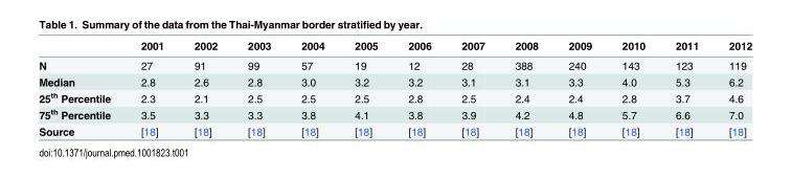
<table><thead><tr><td></td><td>2001</td><td>2002</td><td>2003</td><td>2004</td><td>2005</td><td>2006</td><td>2007</td><td>2008</td><td>2009</td><td>2010</td><td>2011</td><td>2012</td></tr></thead><tbody><tr><td>N</td><td>27</td><td>91</td><td>99</td><td>57</td><td>19</td><td>12</td><td>28</td><td>388</td><td>240</td><td>143</td><td>123</td><td>119</td></tr><tr><td>Median</td><td>2.8</td><td>2.6</td><td>2.8</td><td>3.0</td><td>3.2</td><td>3.2</td><td>3.1</td><td>3.1</td><td>3.3</td><td>4.0</td><td>5.3</td><td>6.2</td></tr><tr><td>25<sup>th</sup> Percentile</td><td>2.3</td><td>2.1</td><td>2.5</td><td>2.5</td><td>2.5</td><td>2.8</td><td>2.5</td><td>2.4</td><td>2.4</td><td>2.8</td><td>3.7</td><td>4.6</td></tr><tr><td>75<sup>th</sup> Percentile</td><td>3.5</td><td>3.3</td><td>3.3</td><td>3.8</td><td>4.1</td><td>3.8</td><td>3.9</td><td>4.2</td><td>4.8</td><td>5.7</td><td>6.6</td><td>7.0</td></tr><tr><td>Source</td><td>[18]</td><td>[18]</td><td>[18]</td><td>[18]</td><td>[18]</td><td>[18]</td><td>[18]</td><td>[18]</td><td>[18]</td><td>[18]</td><td>[18]</td><td>[18]</td></tr></tbody></table>